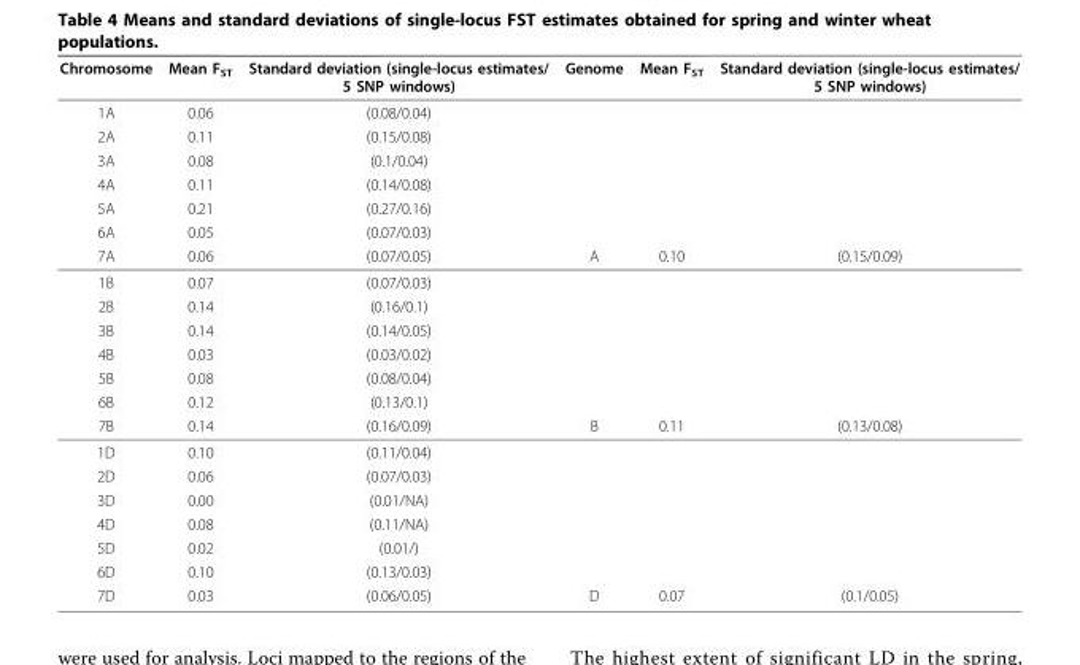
<table><thead><tr><td>Chromosome</td><td>Mean F<sub>ST</sub></td><td>Standard deviation (single-locus estimates/ 5 SNP windows)</td><td>Genome</td><td>Mean F<sub>ST</sub></td><td>Standard deviation (single-locus estimates/ 5 SNP windows)</td></tr></thead><tbody><tr><td>1A</td><td>0.06</td><td>(0.08/0.04)</td><td></td><td></td><td></td></tr><tr><td>2A</td><td>0.11</td><td>(0.15/0.08)</td><td></td><td></td><td></td></tr><tr><td>3A</td><td>0.08</td><td>(0.1/0.04)</td><td></td><td></td><td></td></tr><tr><td>4A</td><td>0.11</td><td>(0.14/0.08)</td><td></td><td></td><td></td></tr><tr><td>5A</td><td>0.21</td><td>(0.27/0.16)</td><td></td><td></td><td></td></tr><tr><td>6A</td><td>0.05</td><td>(0.07/0.03)</td><td></td><td></td><td></td></tr><tr><td>7A</td><td>0.06</td><td>(0.07/0.05)</td><td>A</td><td>0.10</td><td>(0.15/0.09)</td></tr><tr><td>1B</td><td>0.07</td><td>(0.07/0.03)</td><td></td><td></td><td></td></tr><tr><td>2B</td><td>0.14</td><td>(0.16/0.1)</td><td></td><td></td><td></td></tr><tr><td>3B</td><td>0.14</td><td>(0.14/0.05)</td><td></td><td></td><td></td></tr><tr><td>4B</td><td>0.03</td><td>(0.03/0.02)</td><td></td><td></td><td></td></tr><tr><td>5B</td><td>0.08</td><td>(0.08/0.04)</td><td></td><td></td><td></td></tr><tr><td>6B</td><td>0.12</td><td>(0.13/0.1)</td><td></td><td></td><td></td></tr><tr><td>7B</td><td>0.14</td><td>(0.16/0.09)</td><td>B</td><td>0.11</td><td>(0.13/0.08)</td></tr><tr><td>1D</td><td>0.10</td><td>(0.11/0.04)</td><td></td><td></td><td></td></tr><tr><td>2D</td><td>0.06</td><td>(0.07/0.03)</td><td></td><td></td><td></td></tr><tr><td>3D</td><td>0.00</td><td>(0.01/NA)</td><td></td><td></td><td></td></tr><tr><td>4D</td><td>0.08</td><td>(0.11/NA)</td><td></td><td></td><td></td></tr><tr><td>5D</td><td>0.02</td><td>(0.01/)</td><td></td><td></td><td></td></tr><tr><td>6D</td><td>0.10</td><td>(0.13/0.03)</td><td></td><td></td><td></td></tr><tr><td>7D</td><td>0.03</td><td>(0.06/0.05)</td><td>D</td><td>0.07</td><td>(0.1/0.05)</td></tr></tbody></table>